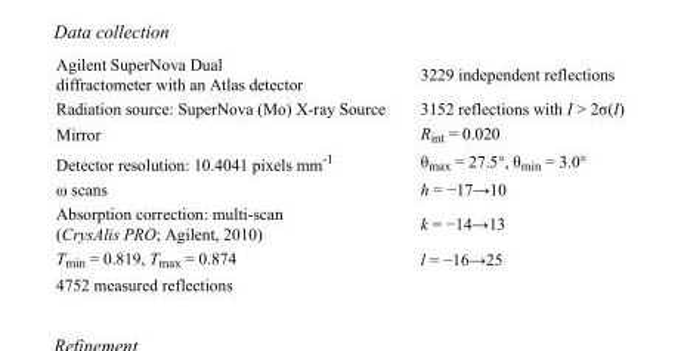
<table><tbody><tr><td>Agilent SuperNova Dual diffractometer with an Atlas detector</td><td>3229 independent reflections</td></tr><tr><td>Radiation source: SuperNova (Mo) X-ray Source</td><td>3152 reflections with I &gt; 2σ(I)</td></tr><tr><td>Mirror</td><td>R<sub>int</sub> = 0.020</td></tr><tr><td>Detector resolution: 10.4041 pixels mm<sup>-1</sup></td><td>θ<sub>max</sub> = 27.5°, θ<sub>min</sub> = 3.0°</td></tr><tr><td>ω scans</td><td>h = −17→10</td></tr><tr><td>Absorption correction: multi-scan (CrysAlis PRO; Agilent, 2010)</td><td>k = −14→13</td></tr><tr><td>T<sub>min</sub> = 0.819, T<sub>max</sub> = 0.874</td><td>l = −16→25</td></tr><tr><td>4752 measured reflections</td><td></td></tr></tbody></table>